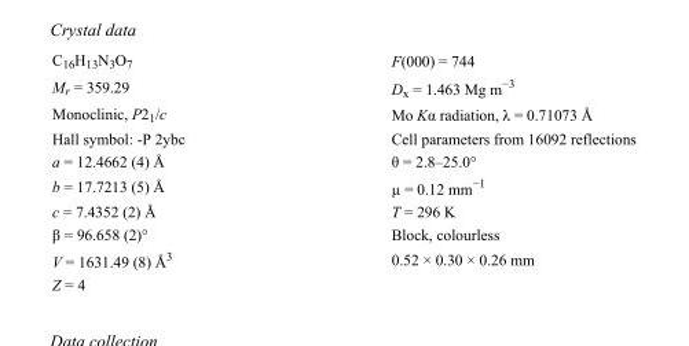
<table><tbody><tr><td>C<sub>16</sub>H<sub>13</sub>N<sub>3</sub>O<sub>7</sub></td><td>F(000) = 744</td></tr><tr><td>M<sub>r</sub> = 359.29</td><td>D<sub>x</sub> = 1.463 Mg m<sup>−3</sup></td></tr><tr><td>Monoclinic, P2<sub>1</sub>/c</td><td>Mo Kα radiation, λ = 0.71073 Å</td></tr><tr><td>Hall symbol: -P 2ybc</td><td>Cell parameters from 16092 reflections</td></tr><tr><td>a = 12.4662 (4) Å</td><td>θ = 2.8–25.0°</td></tr><tr><td>b = 17.7213 (5) Å</td><td>µ = 0.12 mm<sup>−1</sup></td></tr><tr><td>c = 7.4352 (2) Å</td><td>T = 296 K</td></tr><tr><td>β = 96.658 (2)°</td><td>Block, colourless</td></tr><tr><td>V = 1631.49 (8) Å<sup>3</sup></td><td>0.52 × 0.30 × 0.26 mm</td></tr><tr><td>Z = 4</td><td></td></tr></tbody></table>